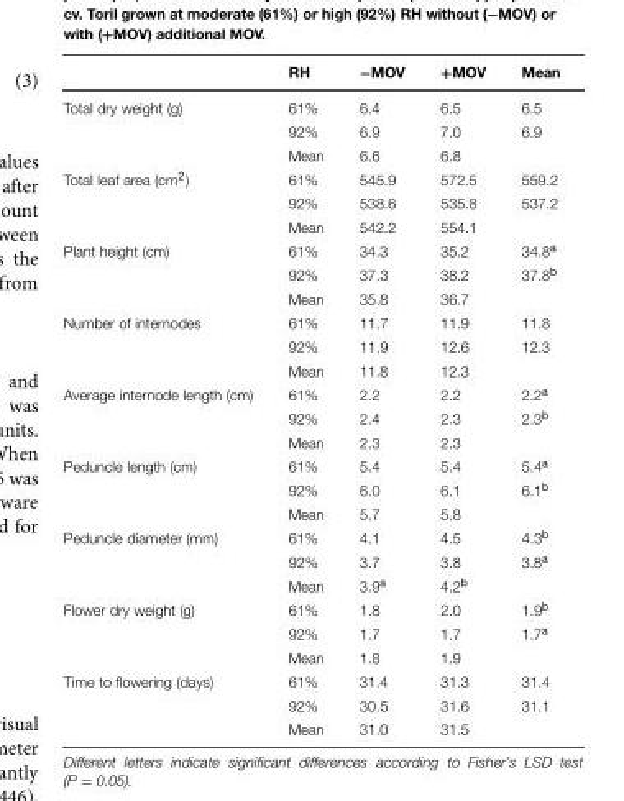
<table><thead><tr><td></td><td>RH</td><td>−MOV</td><td>+MOV</td><td>Mean</td></tr></thead><tbody><tr><td rowspan="3">Total dry weight (g)</td><td>61%</td><td>6.4</td><td>6.5</td><td>6.5</td></tr><tr><td>92%</td><td>6.9</td><td>7.0</td><td>6.9</td></tr><tr><td>Mean</td><td>6.6</td><td>6.8</td><td></td></tr><tr><td rowspan="3">Total leaf area (cm<sup>2</sup>)</td><td>61%</td><td>545.9</td><td>572.5</td><td>559.2</td></tr><tr><td>92%</td><td>538.6</td><td>535.8</td><td>537.2</td></tr><tr><td>Mean</td><td>542.2</td><td>554.1</td><td></td></tr><tr><td rowspan="3">Plant height (cm)</td><td>61%</td><td>34.3</td><td>35.2</td><td>34.8<sup>a</sup></td></tr><tr><td>92%</td><td>37.3</td><td>38.2</td><td>37.8<sup>b</sup></td></tr><tr><td>Mean</td><td>35.8</td><td>36.7</td><td></td></tr><tr><td rowspan="3">Number of internodes</td><td>61%</td><td>11.7</td><td>11.9</td><td>11.8</td></tr><tr><td>92%</td><td>11.9</td><td>12.6</td><td>12.3</td></tr><tr><td>Mean</td><td>11.8</td><td>12.3</td><td></td></tr><tr><td rowspan="3">Average internode length (cm)</td><td>61%</td><td>2.2</td><td>2.2</td><td>2.2<sup>a</sup></td></tr><tr><td>92%</td><td>2.4</td><td>2.3</td><td>2.3<sup>b</sup></td></tr><tr><td>Mean</td><td>2.3</td><td>2.3</td><td></td></tr><tr><td rowspan="3">Peduncle length (cm)</td><td>61%</td><td>5.4</td><td>5.4</td><td>5.4<sup>a</sup></td></tr><tr><td>92%</td><td>6.0</td><td>6.1</td><td>6.1<sup>b</sup></td></tr><tr><td>Mean</td><td>5.7</td><td>5.8</td><td></td></tr><tr><td rowspan="3">Peduncle diameter (mm)</td><td>61%</td><td>4.1</td><td>4.5</td><td>4.3<sup>b</sup></td></tr><tr><td>92%</td><td>3.7</td><td>3.8</td><td>3.8<sup>a</sup></td></tr><tr><td>Mean</td><td>3.9<sup>a</sup></td><td>4.2<sup>b</sup></td><td></td></tr><tr><td rowspan="3">Flower dry weight (g)</td><td>61%</td><td>1.8</td><td>2.0</td><td>1.9<sup>b</sup></td></tr><tr><td>92%</td><td>1.7</td><td>1.7</td><td>1.7<sup>a</sup></td></tr><tr><td>Mean</td><td>1.8</td><td>1.9</td><td></td></tr><tr><td rowspan="3">Time to flowering (days)</td><td>61%</td><td>31.4</td><td>31.3</td><td>31.4</td></tr><tr><td>92%</td><td>30.5</td><td>31.6</td><td>31.1</td></tr><tr><td>Mean</td><td>31.0</td><td>31.5</td><td></td></tr></tbody></table>